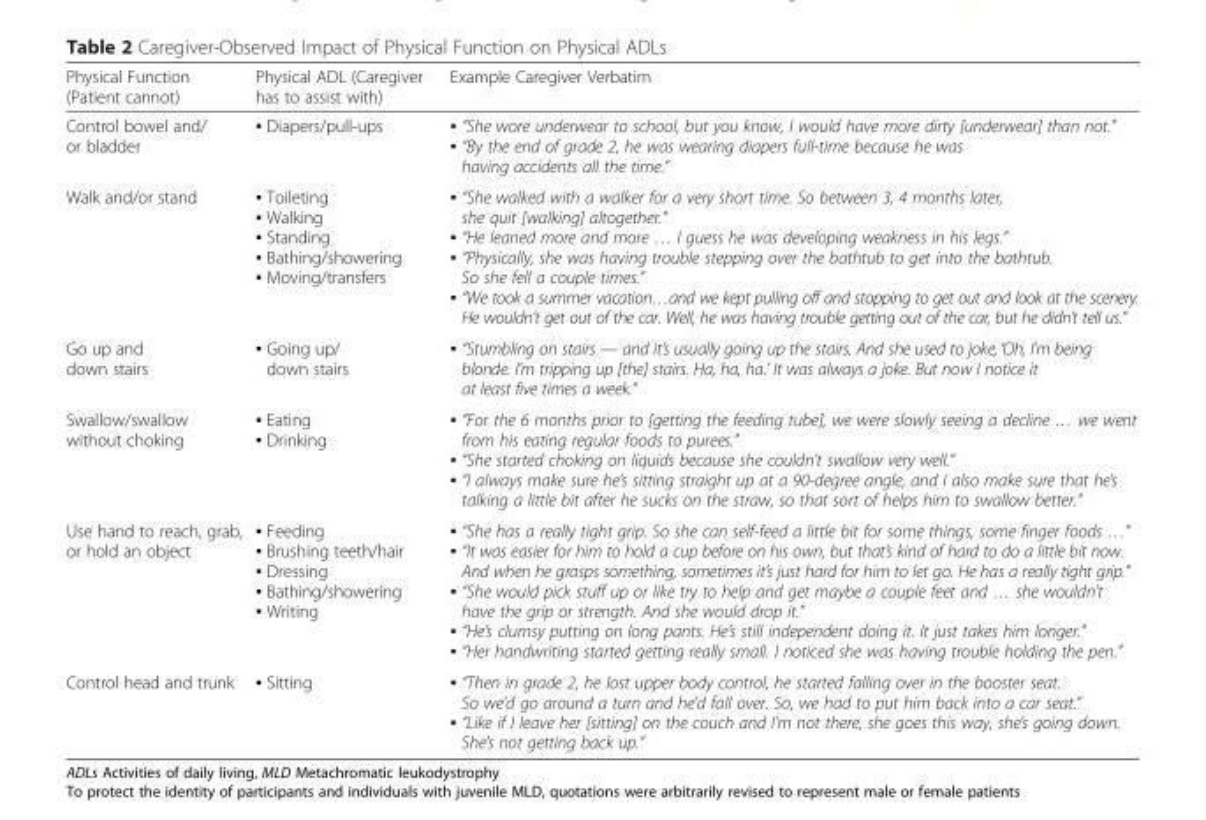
<table><thead><tr><td>Physical Function (Patient cannot)</td><td>Physical ADL (Caregiver has to assist with)</td><td>Example Caregiver Verbatim</td></tr></thead><tbody><tr><td>Control bowel and/ or bladder</td><td>▪ Diapers/pull-ups</td><td>▪ “She wore underwear to school, but you know, I would have more dirty [underwear] than not.” ▪ “By the end of grade 2, he was wearing diapers full-time because he was having accidents all the time.”</td></tr><tr><td>Walk and/or stand</td><td>▪ Toileting ▪ Walking ▪ Standing ▪ Bathing/showering ▪ Moving/transfers</td><td>▪ “She walked with a walker for a very short time. So between 3, 4 months later, she quit [walking] altogether.” ▪ “He leaned more and more … I guess he was developing weakness in his legs.” ▪ “Physically, she was having trouble stepping over the bathtub to get into the bathtub. So she fell a couple times.” ▪ “We took a summer vacation…and we kept pulling off and stopping to get out and look at the scenery. He wouldn’t get out of the car. Well, he was having trouble getting out of the car, but he didn’t tell us.”</td></tr><tr><td>Go up and down stairs</td><td>▪ Going up/ down stairs</td><td>▪ “Stumbling on stairs — and it’s usually going up the stairs. And she used to joke, ‘Oh, I’m being blonde. I’m tripping up [the] stairs. Ha, ha, ha.’ It was always a joke. But now I notice it at least five times a week.”</td></tr><tr><td>Swallow/swallow without choking</td><td>▪ Eating ▪ Drinking</td><td>▪ “For the 6 months prior to [getting the feeding tube], we were slowly seeing a decline … we went from his eating regular foods to purees.” ▪ “She started choking on liquids because she couldn’t swallow very well.” ▪ “I always make sure he’s sitting straight up at a 90-degree angle, and I also make sure that he’s talking a little bit after he sucks on the straw, so that sort of helps him to swallow better.”</td></tr><tr><td>Use hand to reach, grab, or hold an object</td><td>▪ Feeding ▪ Brushing teeth/hair ▪ Dressing ▪ Bathing/showering ▪ Writing</td><td>▪ “She has a really tight grip. So she can self-feed a little bit for some things, some finger foods …” ▪ “It was easier for him to hold a cup before on his own, but that’s kind of hard to do a little bit now. And when he grasps something, sometimes it’s just hard for him to let go. He has a really tight grip.” ▪ “She would pick stuff up or like try to help and get maybe a couple feet and … she wouldn’t have the grip or strength. And she would drop it.” ▪ “He’s clumsy putting on long pants. He’s still independent doing it. It just takes him longer.” ▪ “Her handwriting started getting really small. I noticed she was having trouble holding the pen.”</td></tr><tr><td>Control head and trunk</td><td>▪ Sitting</td><td>▪ “Then in grade 2, he lost upper body control, he started falling over in the booster seat. So we’d go around a turn and he’d fall over. So, we had to put him back into a car seat.” ▪ “Like if I leave her [sitting] on the couch and I’m not there, she goes this way, she’s going down. She’s not getting back up.”</td></tr></tbody></table>